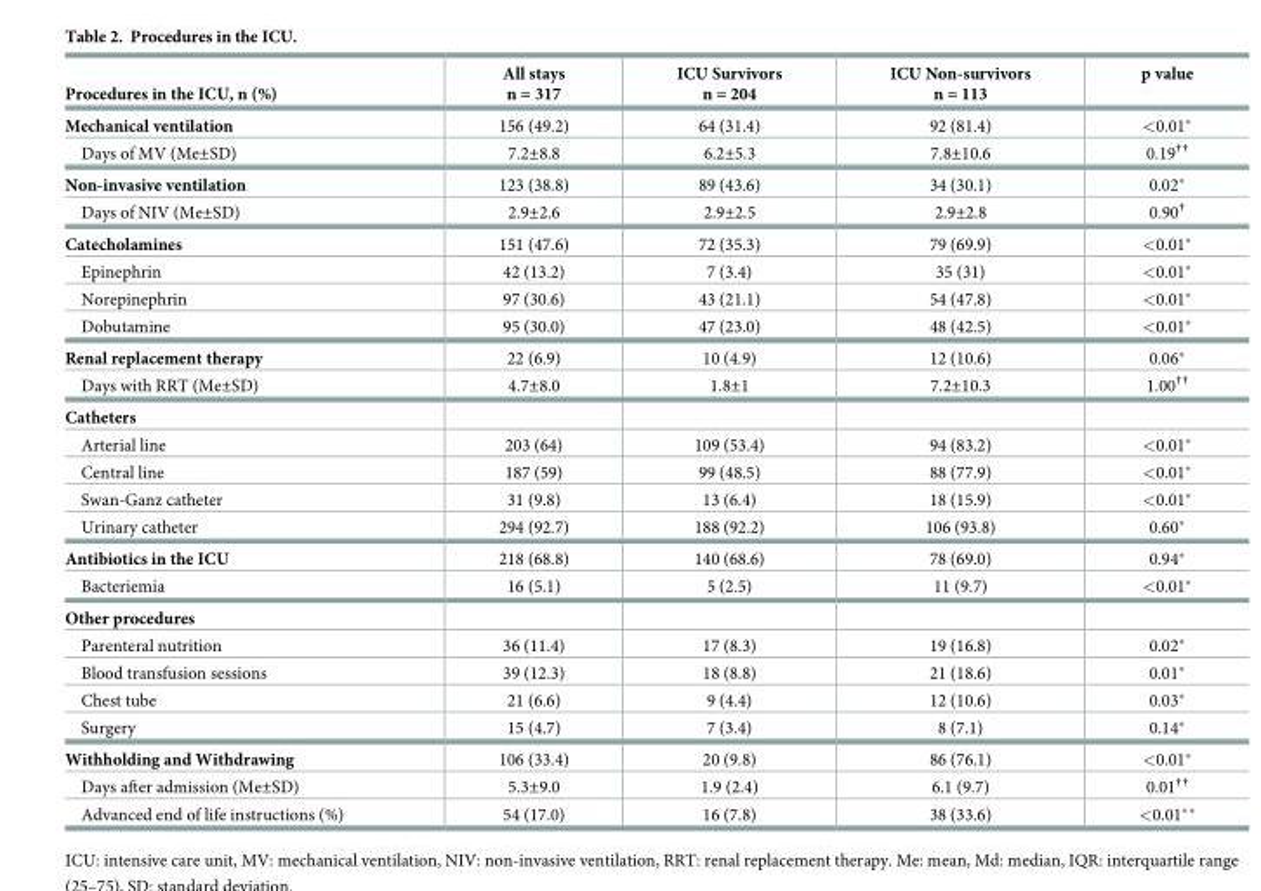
<table><thead><tr><td>Procedures in the ICU, n (%)</td><td>All stays n = 317</td><td>ICU Survivors n = 204</td><td>ICU Non-survivors n = 113</td><td>p value</td></tr></thead><tbody><tr><td>Mechanical ventilation</td><td>156 (49.2)</td><td>64 (31.4)</td><td>92 (81.4)</td><td>&lt;0.01*</td></tr><tr><td>Days of MV (Me±SD)</td><td>7.2±8.8</td><td>6.2±5.3</td><td>7.8±10.6</td><td>0.19<sup>††</sup></td></tr><tr><td>Non-invasive ventilation</td><td>123 (38.8)</td><td>89 (43.6)</td><td>34 (30.1)</td><td>0.02*</td></tr><tr><td>Days of NIV (Me±SD)</td><td>2.9±2.6</td><td>2.9±2.5</td><td>2.9±2.8</td><td>0.90<sup>†</sup></td></tr><tr><td>Catecholamines</td><td>151 (47.6)</td><td>72 (35.3)</td><td>79 (69.9)</td><td>&lt;0.01*</td></tr><tr><td>Epinephrin</td><td>42 (13.2)</td><td>7 (3.4)</td><td>35 (31)</td><td>&lt;0.01*</td></tr><tr><td>Norepinephrin</td><td>97 (30.6)</td><td>43 (21.1)</td><td>54 (47.8)</td><td>&lt;0.01*</td></tr><tr><td>Dobutamine</td><td>95 (30.0)</td><td>47 (23.0)</td><td>48 (42.5)</td><td>&lt;0.01*</td></tr><tr><td>Renal replacement therapy</td><td>22 (6.9)</td><td>10 (4.9)</td><td>12 (10.6)</td><td>0.06*</td></tr><tr><td>Days with RRT (Me±SD)</td><td>4.7±8.0</td><td>1.8±1</td><td>7.2±10.3</td><td>1.00<sup>††</sup></td></tr><tr><td colspan="5">Catheters</td></tr><tr><td>Arterial line</td><td>203 (64)</td><td>109 (53.4)</td><td>94 (83.2)</td><td>&lt;0.01*</td></tr><tr><td>Central line</td><td>187 (59)</td><td>99 (48.5)</td><td>88 (77.9)</td><td>&lt;0.01*</td></tr><tr><td>Swan-Ganz catheter</td><td>31 (9.8)</td><td>13 (6.4)</td><td>18 (15.9)</td><td>&lt;0.01*</td></tr><tr><td>Urinary catheter</td><td>294 (92.7)</td><td>188 (92.2)</td><td>106 (93.8)</td><td>0.60*</td></tr><tr><td>Antibiotics in the ICU</td><td>218 (68.8)</td><td>140 (68.6)</td><td>78 (69.0)</td><td>0.94*</td></tr><tr><td>Bacteriemia</td><td>16 (5.1)</td><td>5 (2.5)</td><td>11 (9.7)</td><td>&lt;0.01*</td></tr><tr><td colspan="5">Other procedures</td></tr><tr><td>Parenteral nutrition</td><td>36 (11.4)</td><td>17 (8.3)</td><td>19 (16.8)</td><td>0.02*</td></tr><tr><td>Blood transfusion sessions</td><td>39 (12.3)</td><td>18 (8.8)</td><td>21 (18.6)</td><td>0.01*</td></tr><tr><td>Chest tube</td><td>21 (6.6)</td><td>9 (4.4)</td><td>12 (10.6)</td><td>0.03*</td></tr><tr><td>Surgery</td><td>15 (4.7)</td><td>7 (3.4)</td><td>8 (7.1)</td><td>0.14*</td></tr><tr><td>Withholding and Withdrawing</td><td>106 (33.4)</td><td>20 (9.8)</td><td>86 (76.1)</td><td>&lt;0.01*</td></tr><tr><td>Days after admission (Me±SD)</td><td>5.3±9.0</td><td>1.9 (2.4)</td><td>6.1 (9.7)</td><td>0.01<sup>††</sup></td></tr><tr><td>Advanced end of life instructions (%)</td><td>54 (17.0)</td><td>16 (7.8)</td><td>38 (33.6)</td><td>&lt;0.01**</td></tr></tbody></table>